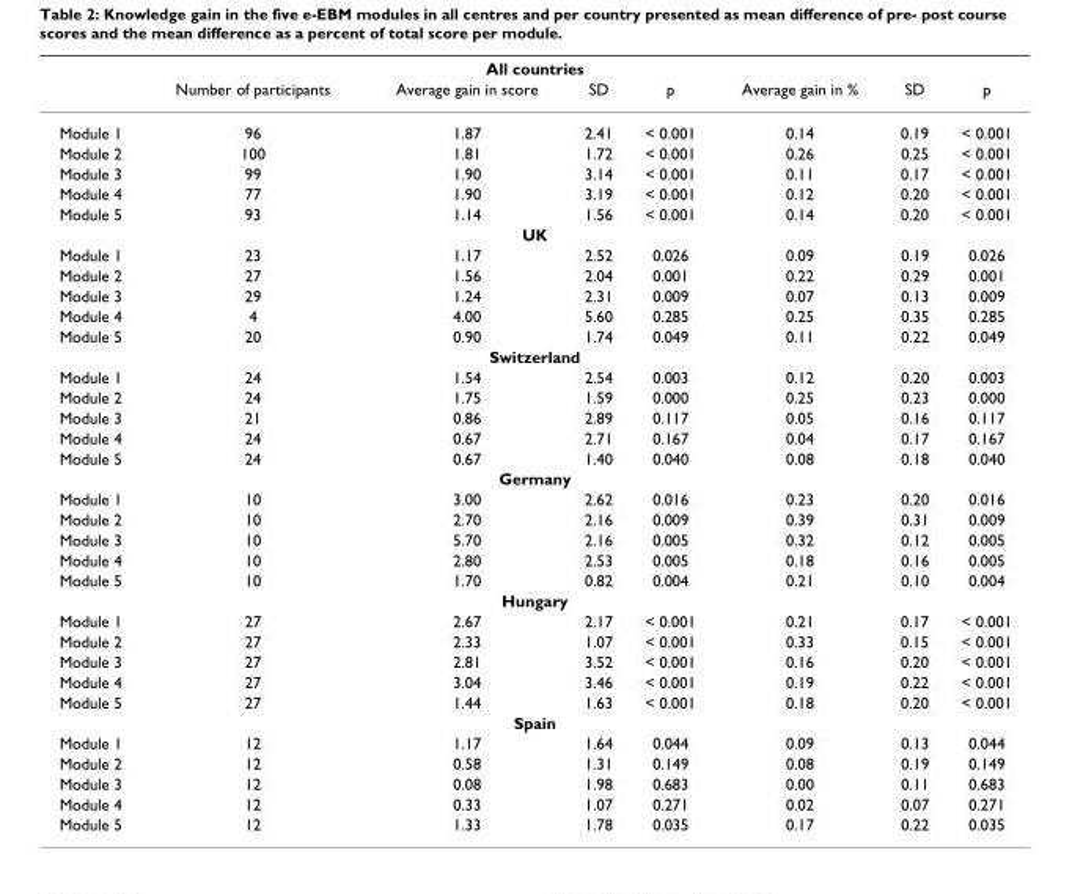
<table><thead><tr><td colspan="8">All countries</td></tr><tr><td></td><td>Number of participants</td><td>Average gain in score</td><td>SD</td><td>p</td><td>Average gain in %</td><td>SD</td><td>p</td></tr></thead><tbody><tr><td>Module 1</td><td>96</td><td>1.87</td><td>2.41</td><td>&lt; 0.001</td><td>0.14</td><td>0.19</td><td>&lt; 0.001</td></tr><tr><td>Module 2</td><td>100</td><td>1.81</td><td>1.72</td><td>&lt; 0.001</td><td>0.26</td><td>0.25</td><td>&lt; 0.001</td></tr><tr><td>Module 3</td><td>99</td><td>1.90</td><td>3.14</td><td>&lt; 0.001</td><td>0.11</td><td>0.17</td><td>&lt; 0.001</td></tr><tr><td>Module 4</td><td>77</td><td>1.90</td><td>3.19</td><td>&lt; 0.001</td><td>0.12</td><td>0.20</td><td>&lt; 0.001</td></tr><tr><td>Module 5</td><td>93</td><td>1.14</td><td>1.56</td><td>&lt; 0.001</td><td>0.14</td><td>0.20</td><td>&lt; 0.001</td></tr><tr><td colspan="8">UK</td></tr><tr><td>Module 1</td><td>23</td><td>1.17</td><td>2.52</td><td>0.026</td><td>0.09</td><td>0.19</td><td>0.026</td></tr><tr><td>Module 2</td><td>27</td><td>1.56</td><td>2.04</td><td>0.001</td><td>0.22</td><td>0.29</td><td>0.001</td></tr><tr><td>Module 3</td><td>29</td><td>1.24</td><td>2.31</td><td>0.009</td><td>0.07</td><td>0.13</td><td>0.009</td></tr><tr><td>Module 4</td><td>4</td><td>4.00</td><td>5.60</td><td>0.285</td><td>0.25</td><td>0.35</td><td>0.285</td></tr><tr><td>Module 5</td><td>20</td><td>0.90</td><td>1.74</td><td>0.049</td><td>0.11</td><td>0.22</td><td>0.049</td></tr><tr><td colspan="8">Switzerland</td></tr><tr><td>Module 1</td><td>24</td><td>1.54</td><td>2.54</td><td>0.003</td><td>0.12</td><td>0.20</td><td>0.003</td></tr><tr><td>Module 2</td><td>24</td><td>1.75</td><td>1.59</td><td>0.000</td><td>0.25</td><td>0.23</td><td>0.000</td></tr><tr><td>Module 3</td><td>21</td><td>0.86</td><td>2.89</td><td>0.117</td><td>0.05</td><td>0.16</td><td>0.117</td></tr><tr><td>Module 4</td><td>24</td><td>0.67</td><td>2.71</td><td>0.167</td><td>0.04</td><td>0.17</td><td>0.167</td></tr><tr><td>Module 5</td><td>24</td><td>0.67</td><td>1.40</td><td>0.040</td><td>0.08</td><td>0.18</td><td>0.040</td></tr><tr><td colspan="8">Germany</td></tr><tr><td>Module 1</td><td>10</td><td>3.00</td><td>2.62</td><td>0.016</td><td>0.23</td><td>0.20</td><td>0.016</td></tr><tr><td>Module 2</td><td>10</td><td>2.70</td><td>2.16</td><td>0.009</td><td>0.39</td><td>0.31</td><td>0.009</td></tr><tr><td>Module 3</td><td>10</td><td>5.70</td><td>2.16</td><td>0.005</td><td>0.32</td><td>0.12</td><td>0.005</td></tr><tr><td>Module 4</td><td>10</td><td>2.80</td><td>2.53</td><td>0.005</td><td>0.18</td><td>0.16</td><td>0.005</td></tr><tr><td>Module 5</td><td>10</td><td>1.70</td><td>0.82</td><td>0.004</td><td>0.21</td><td>0.10</td><td>0.004</td></tr><tr><td colspan="8">Hungary</td></tr><tr><td>Module 1</td><td>27</td><td>2.67</td><td>2.17</td><td>&lt; 0.001</td><td>0.21</td><td>0.17</td><td>&lt; 0.001</td></tr><tr><td>Module 2</td><td>27</td><td>2.33</td><td>1.07</td><td>&lt; 0.001</td><td>0.33</td><td>0.15</td><td>&lt; 0.001</td></tr><tr><td>Module 3</td><td>27</td><td>2.81</td><td>3.52</td><td>&lt; 0.001</td><td>0.16</td><td>0.20</td><td>&lt; 0.001</td></tr><tr><td>Module 4</td><td>27</td><td>3.04</td><td>3.46</td><td>&lt; 0.001</td><td>0.19</td><td>0.22</td><td>&lt; 0.001</td></tr><tr><td>Module 5</td><td>27</td><td>1.44</td><td>1.63</td><td>&lt; 0.001</td><td>0.18</td><td>0.20</td><td>&lt; 0.001</td></tr><tr><td colspan="8">Spain</td></tr><tr><td>Module 1</td><td>12</td><td>1.17</td><td>1.64</td><td>0.044</td><td>0.09</td><td>0.13</td><td>0.044</td></tr><tr><td>Module 2</td><td>12</td><td>0.58</td><td>1.31</td><td>0.149</td><td>0.08</td><td>0.19</td><td>0.149</td></tr><tr><td>Module 3</td><td>12</td><td>0.08</td><td>1.98</td><td>0.683</td><td>0.00</td><td>0.11</td><td>0.683</td></tr><tr><td>Module 4</td><td>12</td><td>0.33</td><td>1.07</td><td>0.271</td><td>0.02</td><td>0.07</td><td>0.271</td></tr><tr><td>Module 5</td><td>12</td><td>1.33</td><td>1.78</td><td>0.035</td><td>0.17</td><td>0.22</td><td>0.035</td></tr></tbody></table>